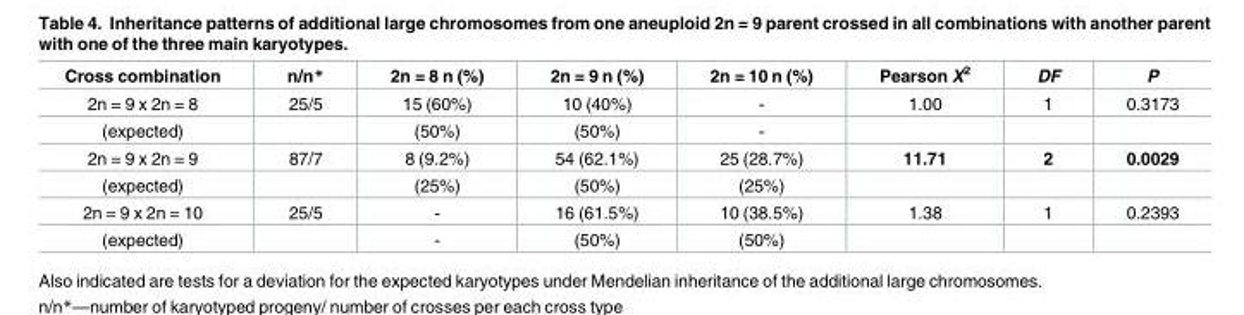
<table><thead><tr><td>Cross combination</td><td>n/n*</td><td>2n = 8 n (%)</td><td>2n = 9 n (%)</td><td>2n = 10 n (%)</td><td>Pearson X<sup>2</sup></td><td>DF</td><td>P</td></tr></thead><tbody><tr><td>2n = 9 x 2n = 8</td><td>25/5</td><td>15 (60%)</td><td>10 (40%)</td><td>-</td><td>1.00</td><td>1</td><td>0.3173</td></tr><tr><td>(expected)</td><td></td><td>(50%)</td><td>(50%)</td><td>-</td><td></td><td></td><td></td></tr><tr><td>2n = 9 x 2n = 9</td><td>87/7</td><td>8 (9.2%)</td><td>54 (62.1%)</td><td>25 (28.7%)</td><td>11.71</td><td>2</td><td>0.0029</td></tr><tr><td>(expected)</td><td></td><td>(25%)</td><td>(50%)</td><td>(25%)</td><td></td><td></td><td></td></tr><tr><td>2n = 9 x 2n = 10</td><td>25/5</td><td>-</td><td>16 (61.5%)</td><td>10 (38.5%)</td><td>1.38</td><td>1</td><td>0.2393</td></tr><tr><td>(expected)</td><td></td><td>-</td><td>(50%)</td><td>(50%)</td><td></td><td></td><td></td></tr></tbody></table>